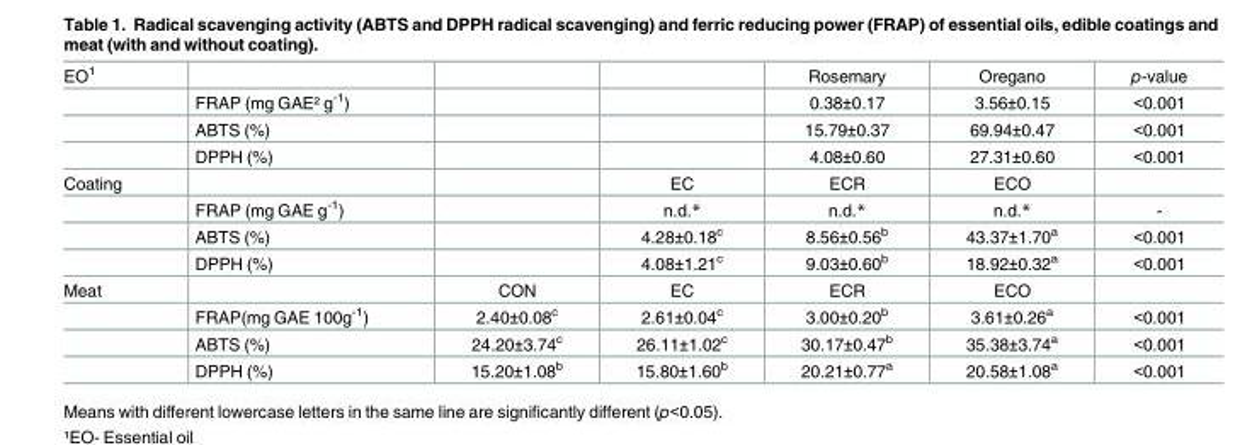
<table><tbody><tr><td rowspan="4">EO<sup>1</sup></td><td></td><td></td><td></td><td>Rosemary</td><td>Oregano</td><td>p-value</td></tr><tr><td>FRAP (mg GAE² g<sup>-1</sup>)</td><td></td><td></td><td>0.38±0.17</td><td>3.56±0.15</td><td>&lt;0.001</td></tr><tr><td>ABTS (%)</td><td></td><td></td><td>15.79±0.37</td><td>69.94±0.47</td><td>&lt;0.001</td></tr><tr><td>DPPH (%)</td><td></td><td></td><td>4.08±0.60</td><td>27.31±0.60</td><td>&lt;0.001</td></tr><tr><td rowspan="4">Coating</td><td></td><td></td><td>EC</td><td>ECR</td><td>ECO</td><td></td></tr><tr><td>FRAP (mg GAE g<sup>-1</sup>)</td><td></td><td>n.d.*</td><td>n.d.*</td><td>n.d.*</td><td>-</td></tr><tr><td>ABTS (%)</td><td></td><td>4.28±0.18<sup>c</sup></td><td>8.56±0.56<sup>b</sup></td><td>43.37±1.70<sup>a</sup></td><td>&lt;0.001</td></tr><tr><td>DPPH (%)</td><td></td><td>4.08±1.21<sup>c</sup></td><td>9.03±0.60<sup>b</sup></td><td>18.92±0.32<sup>a</sup></td><td>&lt;0.001</td></tr><tr><td rowspan="4">Meat</td><td></td><td>CON</td><td>EC</td><td>ECR</td><td>ECO</td><td></td></tr><tr><td>FRAP(mg GAE 100g<sup>-1</sup>)</td><td>2.40±0.08<sup>c</sup></td><td>2.61±0.04<sup>c</sup></td><td>3.00±0.20<sup>b</sup></td><td>3.61±0.26<sup>a</sup></td><td>&lt;0.001</td></tr><tr><td>ABTS (%)</td><td>24.20±3.74<sup>c</sup></td><td>26.11±1.02<sup>c</sup></td><td>30.17±0.47<sup>b</sup></td><td>35.38±3.74<sup>a</sup></td><td>&lt;0.001</td></tr><tr><td>DPPH (%)</td><td>15.20±1.08<sup>b</sup></td><td>15.80±1.60<sup>b</sup></td><td>20.21±0.77<sup>a</sup></td><td>20.58±1.08<sup>a</sup></td><td>&lt;0.001</td></tr></tbody></table>